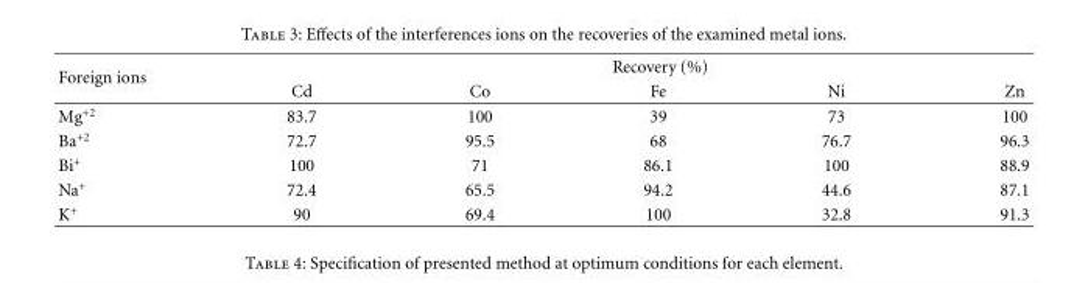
<table><thead><tr><td rowspan="2">Foreign ions</td><td colspan="5">Recovery (%)</td></tr><tr><td>Cd</td><td>Co</td><td>Fe</td><td>Ni</td><td>Zn</td></tr></thead><tbody><tr><td>Mg<sup>+2</sup></td><td>83.7</td><td>100</td><td>39</td><td>73</td><td>100</td></tr><tr><td>Ba<sup>+2</sup></td><td>72.7</td><td>95.5</td><td>68</td><td>76.7</td><td>96.3</td></tr><tr><td>Bi<sup>+</sup></td><td>100</td><td>71</td><td>86.1</td><td>100</td><td>88.9</td></tr><tr><td>Na<sup>+</sup></td><td>72.4</td><td>65.5</td><td>94.2</td><td>44.6</td><td>87.1</td></tr><tr><td>K<sup>+</sup></td><td>90</td><td>69.4</td><td>100</td><td>32.8</td><td>91.3</td></tr></tbody></table>